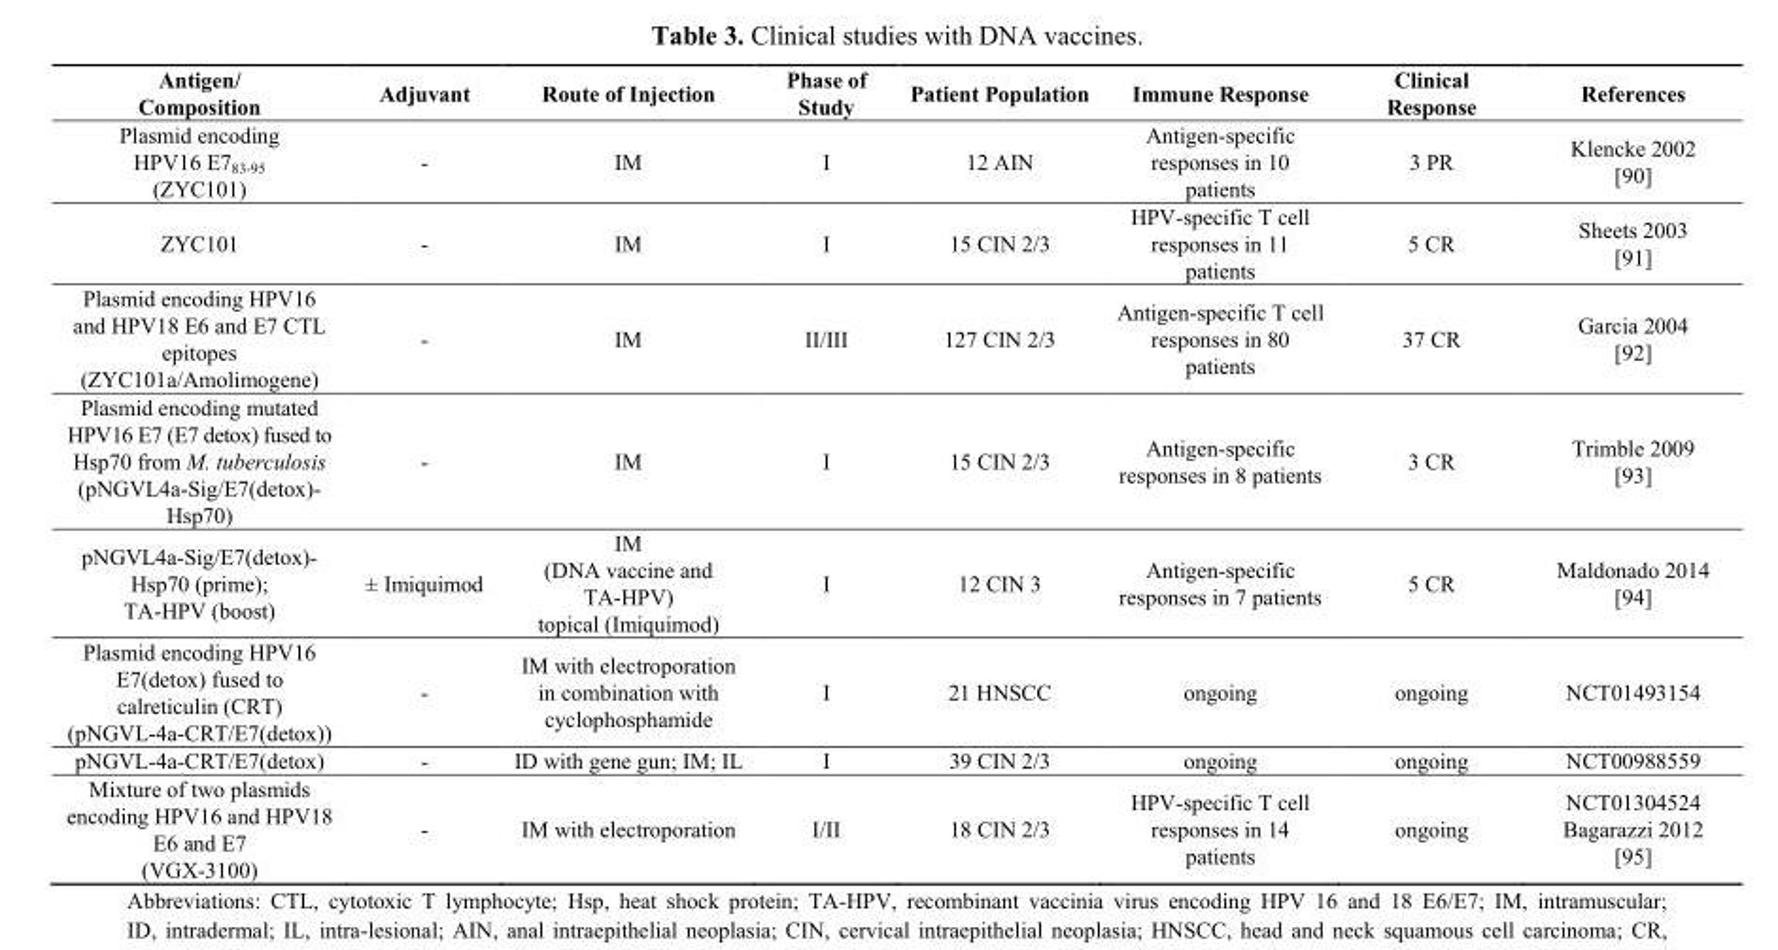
<table><thead><tr><td>Antigen/ Composition</td><td>Adjuvant</td><td>Route of Injection</td><td>Phase of Study</td><td>Patient Population</td><td>Immune Response</td><td>Clinical Response</td><td>References</td></tr></thead><tbody><tr><td>Plasmid encoding HPV16 E7<sub>83-95</sub> (ZYC101)</td><td>-</td><td>IM</td><td>I</td><td>12 AIN</td><td>Antigen-specific responses in 10 patients</td><td>3 PR</td><td>Klencke 2002 [90]</td></tr><tr><td>ZYC101</td><td>-</td><td>IM</td><td>I</td><td>15 CIN 2/3</td><td>HPV-specific T cell responses in 11 patients</td><td>5 CR</td><td>Sheets 2003 [91]</td></tr><tr><td>Plasmid encoding HPV16 and HPV18 E6 and E7 CTL epitopes (ZYC101a/Amolimogene)</td><td>-</td><td>IM</td><td>II/III</td><td>127 CIN 2/3</td><td>Antigen-specific T cell responses in 80 patients</td><td>37 CR</td><td>Garcia 2004 [92]</td></tr><tr><td>Plasmid encoding mutated HPV16 E7 (E7 detox) fused to Hsp70 from M. tuberculosis (pNGVL4a-Sig/E7(detox)- Hsp70)</td><td>-</td><td>IM</td><td>I</td><td>15 CIN 2/3</td><td>Antigen-specific responses in 8 patients</td><td>3 CR</td><td>Trimble 2009 [93]</td></tr><tr><td>pNGVL4a-Sig/E7(detox)- Hsp70 (prime); TA-HPV (boost)</td><td>± Imiquimod</td><td>IM (DNA vaccine and TA-HPV) topical (Imiquimod)</td><td>I</td><td>12 CIN 3</td><td>Antigen-specific responses in 7 patients</td><td>5 CR</td><td>Maldonado 2014 [94]</td></tr><tr><td>Plasmid encoding HPV16 E7(detox) fused to calreticulin (CRT) (pNGVL-4a-CRT/E7(detox))</td><td>-</td><td>IM with electroporation in combination with cyclophosphamide</td><td>I</td><td>21 HNSCC</td><td>ongoing</td><td>ongoing</td><td>NCT01493154</td></tr><tr><td>pNGVL-4a-CRT/E7(detox)</td><td>-</td><td>ID with gene gun; IM; IL</td><td>I</td><td>39 CIN 2/3</td><td>ongoing</td><td>ongoing</td><td>NCT00988559</td></tr><tr><td>Mixture of two plasmids encoding HPV16 and HPV18 E6 and E7 (VGX-3100)</td><td>-</td><td>IM with electroporation</td><td>I/II</td><td>18 CIN 2/3</td><td>HPV-specific T cell responses in 14 patients</td><td>ongoing</td><td>NCT01304524 Bagarazzi 2012 [95]</td></tr></tbody></table>